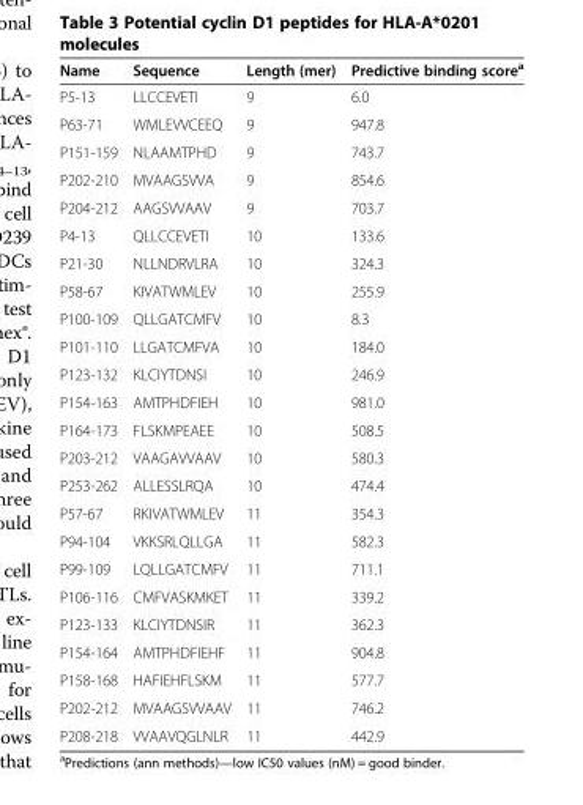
<table><thead><tr><td>Name</td><td>Sequence</td><td>Length (mer)</td><td>Predictive binding score<sup>a</sup></td></tr></thead><tbody><tr><td>P5-13</td><td>LLCCEVETI</td><td>9</td><td>6.0</td></tr><tr><td>P63-71</td><td>WMLEVVCEEQ</td><td>9</td><td>947.8</td></tr><tr><td>P151-159</td><td>NLAAMTPHD</td><td>9</td><td>743.7</td></tr><tr><td>P202-210</td><td>MVAAGSVVA</td><td>9</td><td>854.6</td></tr><tr><td>P204-212</td><td>AAGSVVAAV</td><td>9</td><td>703.7</td></tr><tr><td>P4-13</td><td>QLLCCEVETI</td><td>10</td><td>133.6</td></tr><tr><td>P21-30</td><td>NLLNDRVLRA</td><td>10</td><td>324.3</td></tr><tr><td>P58-67</td><td>KIVATWMLEV</td><td>10</td><td>255.9</td></tr><tr><td>P100-109</td><td>QLLGATCMFV</td><td>10</td><td>8.3</td></tr><tr><td>P101-110</td><td>LLGATCMFVA</td><td>10</td><td>184.0</td></tr><tr><td>P123-132</td><td>KLCIYTDNSI</td><td>10</td><td>246.9</td></tr><tr><td>P154-163</td><td>AMTPHDFIEH</td><td>10</td><td>981.0</td></tr><tr><td>P164-173</td><td>FLSKMPEAEE</td><td>10</td><td>508.5</td></tr><tr><td>P203-212</td><td>VAAGAVVAAV</td><td>10</td><td>580.3</td></tr><tr><td>P253-262</td><td>ALLESSLRQA</td><td>10</td><td>474.4</td></tr><tr><td>P57-67</td><td>RKIVATWMLEV</td><td>11</td><td>354.3</td></tr><tr><td>P94-104</td><td>VKKSRLQLLGA</td><td>11</td><td>582.3</td></tr><tr><td>P99-109</td><td>LQLLGATCMFV</td><td>11</td><td>711.1</td></tr><tr><td>P106-116</td><td>CMFVASKMKET</td><td>11</td><td>339.2</td></tr><tr><td>P123-133</td><td>KLCIYTDNSIR</td><td>11</td><td>362.3</td></tr><tr><td>P154-164</td><td>AMTPHDFIEHF</td><td>11</td><td>904.8</td></tr><tr><td>P158-168</td><td>HAFIEHFLSKM</td><td>11</td><td>577.7</td></tr><tr><td>P202-212</td><td>MVAAGSVVAAV</td><td>11</td><td>746.2</td></tr><tr><td>P208-218</td><td>VVAAVQGLNLR</td><td>11</td><td>442.9</td></tr></tbody></table>